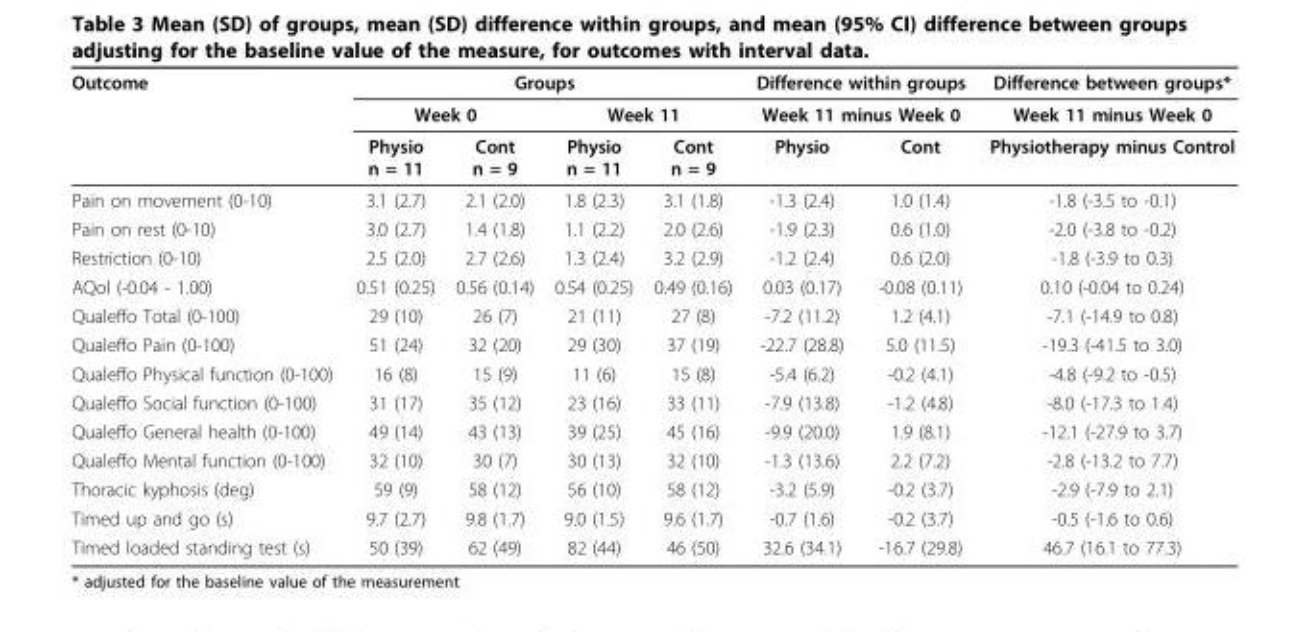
<table><thead><tr><td rowspan="3">Outcome</td><td colspan="4">Groups</td><td rowspan="2" colspan="2">Difference within groups Week 11 minus Week 0</td><td rowspan="3">Difference between groups* Week 11 minus Week 0 Physiotherapy minus Control</td></tr><tr><td colspan="2">Week 0</td><td colspan="2">Week 11</td></tr><tr><td>Physio n = 11</td><td>Cont n = 9</td><td>Physio n = 11</td><td>Cont n = 9</td><td>Physio</td><td>Cont</td></tr></thead><tbody><tr><td>Pain on movement (0-10)</td><td>3.1 (2.7)</td><td>2.1 (2.0)</td><td>1.8 (2.3)</td><td>3.1 (1.8)</td><td>-1.3 (2.4)</td><td>1.0 (1.4)</td><td>-1.8 (-3.5 to -0.1)</td></tr><tr><td>Pain on rest (0-10)</td><td>3.0 (2.7)</td><td>1.4 (1.8)</td><td>1.1 (2.2)</td><td>2.0 (2.6)</td><td>-1.9 (2.3)</td><td>0.6 (1.0)</td><td>-2.0 (-3.8 to -0.2)</td></tr><tr><td>Restriction (0-10)</td><td>2.5 (2.0)</td><td>2.7 (2.6)</td><td>1.3 (2.4)</td><td>3.2 (2.9)</td><td>-1.2 (2.4)</td><td>0.6 (2.0)</td><td>-1.8 (-3.9 to 0.3)</td></tr><tr><td>AQol (-0.04 - 1.00)</td><td>0.51 (0.25)</td><td>0.56 (0.14)</td><td>0.54 (0.25)</td><td>0.49 (0.16)</td><td>0.03 (0.17)</td><td>-0.08 (0.11)</td><td>0.10 (-0.04 to 0.24)</td></tr><tr><td>Qualeffo Total (0-100)</td><td>29 (10)</td><td>26 (7)</td><td>21 (11)</td><td>27 (8)</td><td>-7.2 (11.2)</td><td>1.2 (4.1)</td><td>-7.1 (-14.9 to 0.8)</td></tr><tr><td>Qualeffo Pain (0-100)</td><td>51 (24)</td><td>32 (20)</td><td>29 (30)</td><td>37 (19)</td><td>-22.7 (28.8)</td><td>5.0 (11.5)</td><td>-19.3 (-41.5 to 3.0)</td></tr><tr><td>Qualeffo Physical function (0-100)</td><td>16 (8)</td><td>15 (9)</td><td>11 (6)</td><td>15 (8)</td><td>-5.4 (6.2)</td><td>-0.2 (4.1)</td><td>-4.8 (-9.2 to -0.5)</td></tr><tr><td>Qualeffo Social function (0-100)</td><td>31 (17)</td><td>35 (12)</td><td>23 (16)</td><td>33 (11)</td><td>-7.9 (13.8)</td><td>-1.2 (4.8)</td><td>-8.0 (-17.3 to 1.4)</td></tr><tr><td>Qualeffo General health (0-100)</td><td>49 (14)</td><td>43 (13)</td><td>39 (25)</td><td>45 (16)</td><td>-9.9 (20.0)</td><td>1.9 (8.1)</td><td>-12.1 (-27.9 to 3.7)</td></tr><tr><td>Qualeffo Mental function (0-100)</td><td>32 (10)</td><td>30 (7)</td><td>30 (13)</td><td>32 (10)</td><td>-1.3 (13.6)</td><td>2.2 (7.2)</td><td>-2.8 (-13.2 to 7.7)</td></tr><tr><td>Thoracic kyphosis (deg)</td><td>59 (9)</td><td>58 (12)</td><td>56 (10)</td><td>58 (12)</td><td>-3.2 (5.9)</td><td>-0.2 (3.7)</td><td>-2.9 (-7.9 to 2.1)</td></tr><tr><td>Timed up and go (s)</td><td>9.7 (2.7)</td><td>9.8 (1.7)</td><td>9.0 (1.5)</td><td>9.6 (1.7)</td><td>-0.7 (1.6)</td><td>-0.2 (3.7)</td><td>-0.5 (-1.6 to 0.6)</td></tr><tr><td>Timed loaded standing test (s)</td><td>50 (39)</td><td>62 (49)</td><td>82 (44)</td><td>46 (50)</td><td>32.6 (34.1)</td><td>-16.7 (29.8)</td><td>46.7 (16.1 to 77.3)</td></tr></tbody></table>